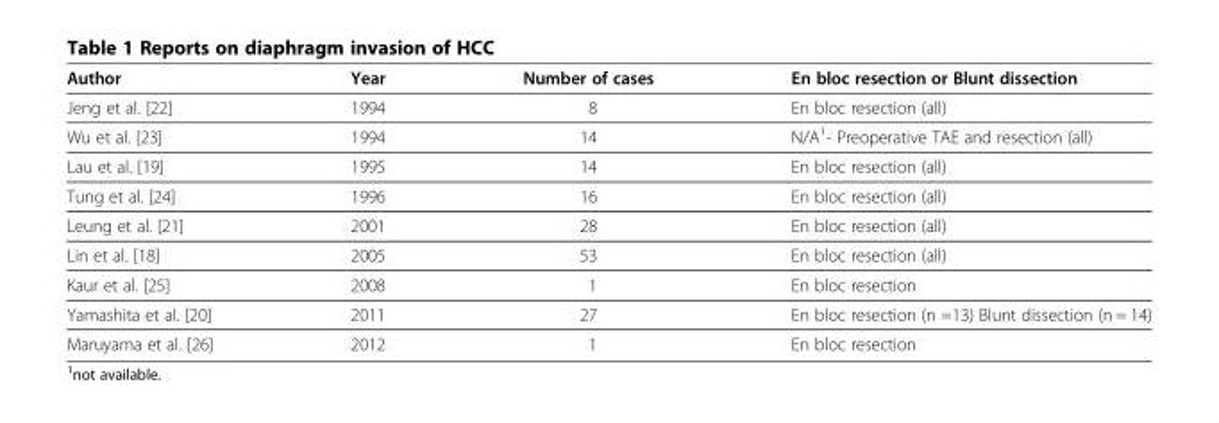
<table><thead><tr><td>Author</td><td>Year</td><td>Number of cases</td><td>En bloc resection or Blunt dissection</td></tr></thead><tbody><tr><td>Jeng et al. [22]</td><td>1994</td><td>8</td><td>En bloc resection (all)</td></tr><tr><td>Wu et al. [23]</td><td>1994</td><td>14</td><td>N/A<sup>1</sup>- Preoperative TAE and resection (all)</td></tr><tr><td>Lau et al. [19]</td><td>1995</td><td>14</td><td>En bloc resection (all)</td></tr><tr><td>Tung et al. [24]</td><td>1996</td><td>16</td><td>En bloc resection (all)</td></tr><tr><td>Leung et al. [21]</td><td>2001</td><td>28</td><td>En bloc resection (all)</td></tr><tr><td>Lin et al. [18]</td><td>2005</td><td>53</td><td>En bloc resection (all)</td></tr><tr><td>Kaur et al. [25]</td><td>2008</td><td>1</td><td>En bloc resection</td></tr><tr><td>Yamashita et al. [20]</td><td>2011</td><td>27</td><td>En bloc resection (n =13) Blunt dissection (n = 14)</td></tr><tr><td>Maruyama et al. [26]</td><td>2012</td><td>1</td><td>En bloc resection</td></tr></tbody></table>